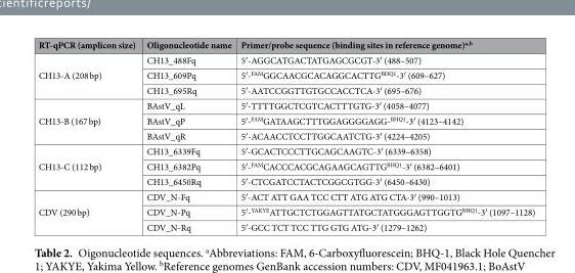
<table><thead><tr><td>RT-qPCR (amplicon size)</td><td>Oligonucleotide name</td><td>Primer/probe sequence (binding sites in reference genome)<sup>a,b</sup></td></tr></thead><tbody><tr><td rowspan="3">CH13-A (208 bp)</td><td>CH13_488Fq</td><td>5′-AGGCATGACTATGAGCGCGT-3′ (488–507)</td></tr><tr><td>CH13_609Pq</td><td>5′-<sup>FAM</sup>GGCAACGCACAGGCACTTG<sup>BHQ1</sup>-3′ (609–627)</td></tr><tr><td>CH13_695Rq</td><td>5′-AATCCGGTTGTGCCACCTCA-3′ (695–676)</td></tr><tr><td rowspan="3">CH13-B (167 bp)</td><td>BAstV_qL</td><td>5′-TTTTGGCTCGTCACTTTGTG-3′ (4058–4077)</td></tr><tr><td>BAstV_qP</td><td>5′-<sup>FAM</sup>GATAAGCTTTGGAGGGGAGG-<sup>BHQ1</sup>-3′ (4123–4142)</td></tr><tr><td>BAstV_qR</td><td>5′-ACAACCTCCTTGGCAATCTG-3′ (4224–4205)</td></tr><tr><td rowspan="3">CH13-C (112 bp)</td><td>CH13_6339Fq</td><td>5′-GCACTCCCTTGCAGCAAGTC-3′ (6339–6358)</td></tr><tr><td>CH13_6382Pq</td><td>5′-<sup>FAM</sup>CACCCACGCAGAAGCAGTTG<sup>BHQ1</sup>-3′ (6382–6401)</td></tr><tr><td>CH13_6450Rq</td><td>5′-CTCGATCCTACTCGGCGTGG-3′ (6450–6430)</td></tr><tr><td rowspan="3">CDV (290 bp)</td><td>CDV_N-Fq</td><td>5′-ACT ATT GAA TCC CTT ATG ATG CTA-3′ (990–1013)</td></tr><tr><td>CDV_N-Pq</td><td>5′-<sup>YAKYE</sup>ATTGCTCTGGAGTTATGCTATGGGAGTTGGTG<sup>BHQ1</sup>-3′ (1097–1128)</td></tr><tr><td>CDV_N-Rq</td><td>5′-GCC TCT TCC TTG GTG ATG-3′ (1279–1262)</td></tr></tbody></table>